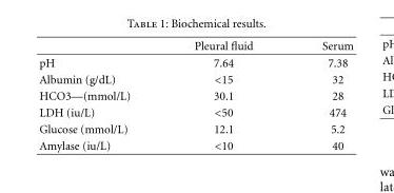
<table><thead><tr><td></td><td>Pleural fluid</td><td>Serum</td></tr></thead><tbody><tr><td>pH</td><td>7.64</td><td>7.38</td></tr><tr><td>Albumin (g/dL)</td><td>&lt;15</td><td>32</td></tr><tr><td>HCO3—(mmol/L)</td><td>30.1</td><td>28</td></tr><tr><td>LDH (iu/L)</td><td>&lt;50</td><td>474</td></tr><tr><td>Glucose (mmol/L)</td><td>12.1</td><td>5.2</td></tr><tr><td>Amylase (iu/L)</td><td>&lt;10</td><td>40</td></tr></tbody></table>